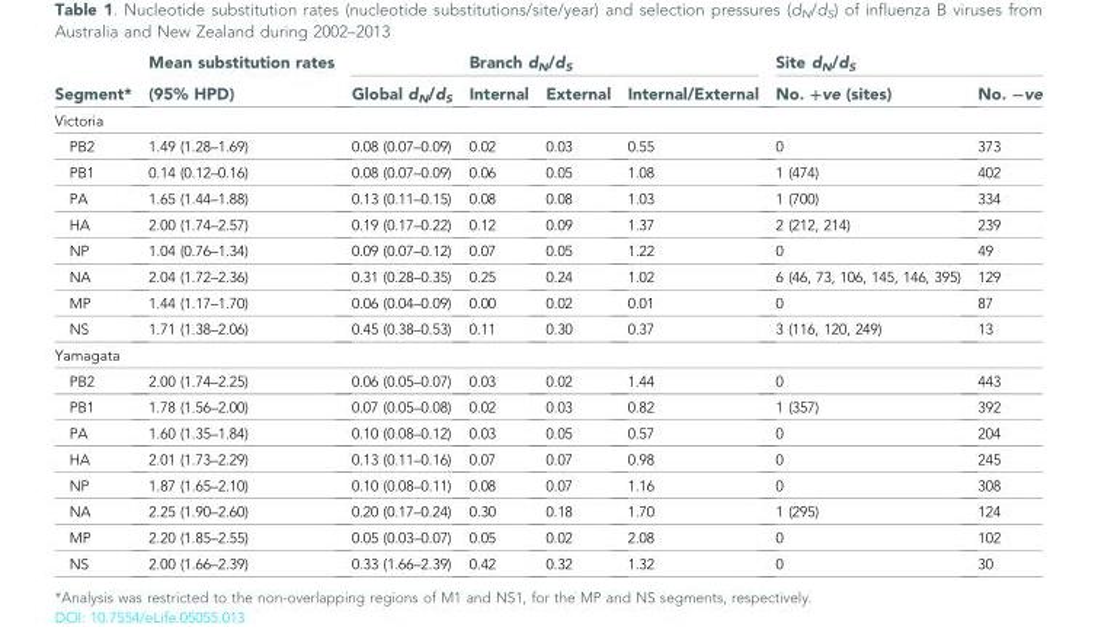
<table><thead><tr><td rowspan="2">Segment*</td><td rowspan="2">Mean substitution rates (95% HPD)</td><td rowspan="2">Global d<sub>N</sub>/d<sub>S</sub></td><td colspan="3">Branch d<sub>N</sub>/d<sub>S</sub></td><td colspan="2">Site d<sub>N</sub>/d<sub>S</sub></td></tr><tr><td>Internal</td><td>External</td><td>Internal/External</td><td>No. +ve (sites)</td><td>No. −ve</td></tr></thead><tbody><tr><td colspan="8">Victoria</td></tr><tr><td>PB2</td><td>1.49 (1.28–1.69)</td><td>0.08 (0.07–0.09)</td><td>0.02</td><td>0.03</td><td>0.55</td><td>0</td><td>373</td></tr><tr><td>PB1</td><td>0.14 (0.12–0.16)</td><td>0.08 (0.07–0.09)</td><td>0.06</td><td>0.05</td><td>1.08</td><td>1 (474)</td><td>402</td></tr><tr><td>PA</td><td>1.65 (1.44–1.88)</td><td>0.13 (0.11–0.15)</td><td>0.08</td><td>0.08</td><td>1.03</td><td>1 (700)</td><td>334</td></tr><tr><td>HA</td><td>2.00 (1.74–2.57)</td><td>0.19 (0.17–0.22)</td><td>0.12</td><td>0.09</td><td>1.37</td><td>2 (212, 214)</td><td>239</td></tr><tr><td>NP</td><td>1.04 (0.76–1.34)</td><td>0.09 (0.07–0.12)</td><td>0.07</td><td>0.05</td><td>1.22</td><td>0</td><td>49</td></tr><tr><td>NA</td><td>2.04 (1.72–2.36)</td><td>0.31 (0.28–0.35)</td><td>0.25</td><td>0.24</td><td>1.02</td><td>6 (46, 73, 106, 145, 146, 395)</td><td>129</td></tr><tr><td>MP</td><td>1.44 (1.17–1.70)</td><td>0.06 (0.04–0.09)</td><td>0.00</td><td>0.02</td><td>0.01</td><td>0</td><td>87</td></tr><tr><td>NS</td><td>1.71 (1.38–2.06)</td><td>0.45 (0.38–0.53)</td><td>0.11</td><td>0.30</td><td>0.37</td><td>3 (116, 120, 249)</td><td>13</td></tr><tr><td colspan="8">Yamagata</td></tr><tr><td>PB2</td><td>2.00 (1.74–2.25)</td><td>0.06 (0.05–0.07)</td><td>0.03</td><td>0.02</td><td>1.44</td><td>0</td><td>443</td></tr><tr><td>PB1</td><td>1.78 (1.56–2.00)</td><td>0.07 (0.05–0.08)</td><td>0.02</td><td>0.03</td><td>0.82</td><td>1 (357)</td><td>392</td></tr><tr><td>PA</td><td>1.60 (1.35–1.84)</td><td>0.10 (0.08–0.12)</td><td>0.03</td><td>0.05</td><td>0.57</td><td>0</td><td>204</td></tr><tr><td>HA</td><td>2.01 (1.73–2.29)</td><td>0.13 (0.11–0.16)</td><td>0.07</td><td>0.07</td><td>0.98</td><td>0</td><td>245</td></tr><tr><td>NP</td><td>1.87 (1.65–2.10)</td><td>0.10 (0.08–0.11)</td><td>0.08</td><td>0.07</td><td>1.16</td><td>0</td><td>308</td></tr><tr><td>NA</td><td>2.25 (1.90–2.60)</td><td>0.20 (0.17–0.24)</td><td>0.30</td><td>0.18</td><td>1.70</td><td>1 (295)</td><td>124</td></tr><tr><td>MP</td><td>2.20 (1.85–2.55)</td><td>0.05 (0.03–0.07)</td><td>0.05</td><td>0.02</td><td>2.08</td><td>0</td><td>102</td></tr><tr><td>NS</td><td>2.00 (1.66–2.39)</td><td>0.33 (1.66–2.39)</td><td>0.42</td><td>0.32</td><td>1.32</td><td>0</td><td>30</td></tr></tbody></table>